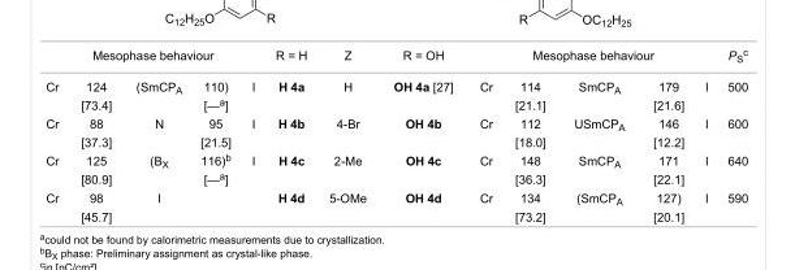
<table><tbody><tr><td colspan="5">Mesophase behaviour</td><td>R = H</td><td>Z</td><td>R = OH</td><td colspan="5">Mesophase behaviour</td><td>P<sub>S</sub><sup>c</sup></td></tr><tr><td rowspan="2">Cr</td><td>124</td><td>(SmCP<sub>A</sub></td><td>110)</td><td>I</td><td>H 4a</td><td>H</td><td>OH 4a [27]</td><td>Cr</td><td>114</td><td>SmCP<sub>A</sub></td><td>179</td><td>I</td><td>500</td></tr><tr><td>[73.4]</td><td></td><td>[—<sup>a</sup>]</td><td></td><td></td><td></td><td></td><td></td><td>[21.1]</td><td></td><td>[21.6]</td><td></td><td></td></tr><tr><td rowspan="2">Cr</td><td>88</td><td>N</td><td>95</td><td>I</td><td>H 4b</td><td>4-Br</td><td>OH 4b</td><td>Cr</td><td>112</td><td>USmCP<sub>A</sub></td><td>146</td><td>I</td><td>600</td></tr><tr><td>[37.3]</td><td></td><td>[21.5]</td><td></td><td></td><td></td><td></td><td></td><td>[18.0]</td><td></td><td>[12.2]</td><td></td><td></td></tr><tr><td rowspan="2">Cr</td><td>125</td><td>(B<sub>X</sub></td><td>116)<sup>b</sup></td><td>I</td><td>H 4c</td><td>2-Me</td><td>OH 4c</td><td>Cr</td><td>148</td><td>SmCP<sub>A</sub></td><td>171</td><td>I</td><td>640</td></tr><tr><td>[80.9]</td><td></td><td>[—<sup>a</sup>]</td><td></td><td></td><td></td><td></td><td></td><td>[36.3]</td><td></td><td>[22.1]</td><td></td><td></td></tr><tr><td rowspan="2">Cr</td><td>98</td><td>I</td><td></td><td></td><td>H 4d</td><td>5-OMe</td><td>OH 4d</td><td>Cr</td><td>134</td><td>(SmCP<sub>A</sub></td><td>127)</td><td>I</td><td>590</td></tr><tr><td>[45.7]</td><td></td><td></td><td></td><td></td><td></td><td></td><td></td><td>[73.2]</td><td></td><td>[20.1]</td><td></td><td></td></tr></tbody></table>